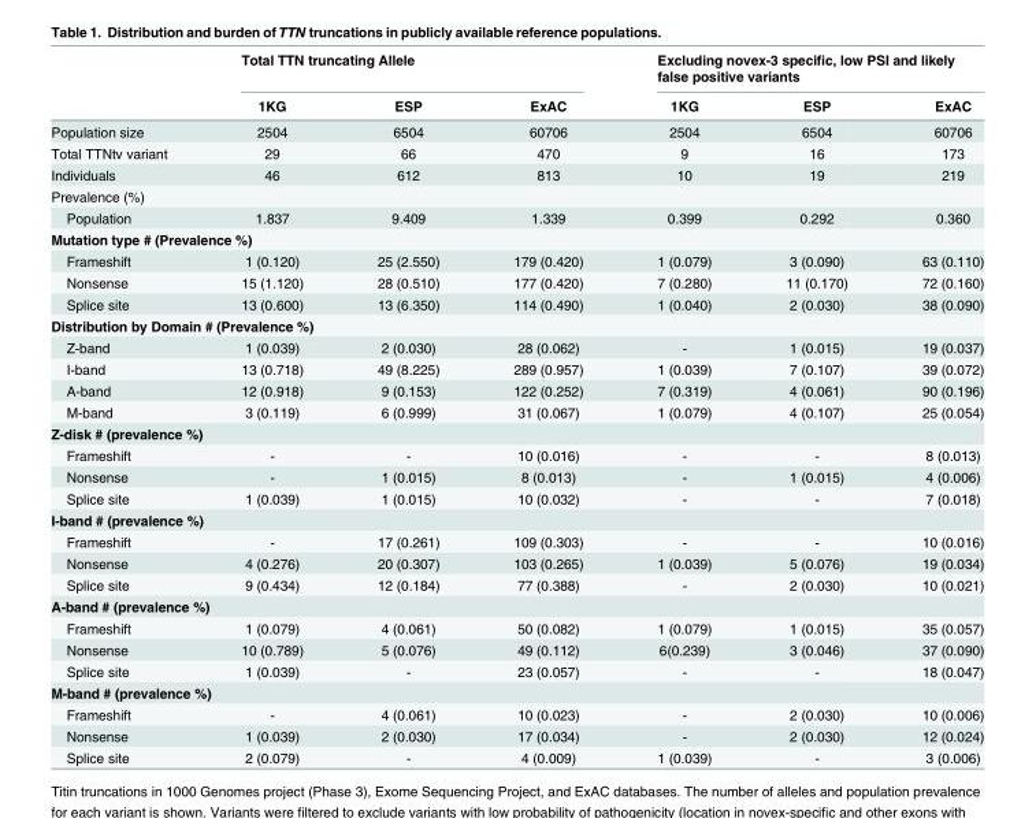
<table><thead><tr><td rowspan="2"></td><td colspan="3">Total TTN truncating Allele</td><td colspan="3">Excluding novex-3 specific, low PSI and likely false positive variants</td></tr><tr><td>1KG</td><td>ESP</td><td>ExAC</td><td>1KG</td><td>ESP</td><td>ExAC</td></tr></thead><tbody><tr><td>Population size</td><td>2504</td><td>6504</td><td>60706</td><td>2504</td><td>6504</td><td>60706</td></tr><tr><td>Total TTNtv variant</td><td>29</td><td>66</td><td>470</td><td>9</td><td>16</td><td>173</td></tr><tr><td>Individuals</td><td>46</td><td>612</td><td>813</td><td>10</td><td>19</td><td>219</td></tr><tr><td colspan="7">Prevalence (%)</td></tr><tr><td>Population</td><td>1.837</td><td>9.409</td><td>1.339</td><td>0.399</td><td>0.292</td><td>0.360</td></tr><tr><td colspan="7">Mutation type # (Prevalence %)</td></tr><tr><td>Frameshift</td><td>1 (0.120)</td><td>25 (2.550)</td><td>179 (0.420)</td><td>1 (0.079)</td><td>3 (0.090)</td><td>63 (0.110)</td></tr><tr><td>Nonsense</td><td>15 (1.120)</td><td>28 (0.510)</td><td>177 (0.420)</td><td>7 (0.280)</td><td>11 (0.170)</td><td>72 (0.160)</td></tr><tr><td>Splice site</td><td>13 (0.600)</td><td>13 (6.350)</td><td>114 (0.490)</td><td>1 (0.040)</td><td>2 (0.030)</td><td>38 (0.090)</td></tr><tr><td colspan="7">Distribution by Domain # (Prevalence %)</td></tr><tr><td>Z-band</td><td>1 (0.039)</td><td>2 (0.030)</td><td>28 (0.062)</td><td>-</td><td>1 (0.015)</td><td>19 (0.037)</td></tr><tr><td>I-band</td><td>13 (0.718)</td><td>49 (8.225)</td><td>289 (0.957)</td><td>1 (0.039)</td><td>7 (0.107)</td><td>39 (0.072)</td></tr><tr><td>A-band</td><td>12 (0.918)</td><td>9 (0.153)</td><td>122 (0.252)</td><td>7 (0.319)</td><td>4 (0.061)</td><td>90 (0.196)</td></tr><tr><td>M-band</td><td>3 (0.119)</td><td>6 (0.999)</td><td>31 (0.067)</td><td>1 (0.079)</td><td>4 (0.107)</td><td>25 (0.054)</td></tr><tr><td colspan="7">Z-disk # (prevalence %)</td></tr><tr><td>Frameshift</td><td>-</td><td>-</td><td>10 (0.016)</td><td>-</td><td>-</td><td>8 (0.013)</td></tr><tr><td>Nonsense</td><td>-</td><td>1 (0.015)</td><td>8 (0.013)</td><td>-</td><td>1 (0.015)</td><td>4 (0.006)</td></tr><tr><td>Splice site</td><td>1 (0.039)</td><td>1 (0.015)</td><td>10 (0.032)</td><td>-</td><td>-</td><td>7 (0.018)</td></tr><tr><td colspan="7">I-band # (prevalence %)</td></tr><tr><td>Frameshift</td><td>-</td><td>17 (0.261)</td><td>109 (0.303)</td><td>-</td><td>-</td><td>10 (0.016)</td></tr><tr><td>Nonsense</td><td>4 (0.276)</td><td>20 (0.307)</td><td>103 (0.265)</td><td>1 (0.039)</td><td>5 (0.076)</td><td>19 (0.034)</td></tr><tr><td>Splice site</td><td>9 (0.434)</td><td>12 (0.184)</td><td>77 (0.388)</td><td>-</td><td>2 (0.030)</td><td>10 (0.021)</td></tr><tr><td colspan="7">A-band # (prevalence %)</td></tr><tr><td>Frameshift</td><td>1 (0.079)</td><td>4 (0.061)</td><td>50 (0.082)</td><td>1 (0.079)</td><td>1 (0.015)</td><td>35 (0.057)</td></tr><tr><td>Nonsense</td><td>10 (0.789)</td><td>5 (0.076)</td><td>49 (0.112)</td><td>6(0.239)</td><td>3 (0.046)</td><td>37 (0.090)</td></tr><tr><td>Splice site</td><td>1 (0.039)</td><td>-</td><td>23 (0.057)</td><td>-</td><td>-</td><td>18 (0.047)</td></tr><tr><td colspan="7">M-band # (prevalence %)</td></tr><tr><td>Frameshift</td><td>-</td><td>4 (0.061)</td><td>10 (0.023)</td><td>-</td><td>2 (0.030)</td><td>10 (0.006)</td></tr><tr><td>Nonsense</td><td>1 (0.039)</td><td>2 (0.030)</td><td>17 (0.034)</td><td>-</td><td>2 (0.030)</td><td>12 (0.024)</td></tr><tr><td>Splice site</td><td>2 (0.079)</td><td>-</td><td>4 (0.009)</td><td>1 (0.039)</td><td>-</td><td>3 (0.006)</td></tr></tbody></table>